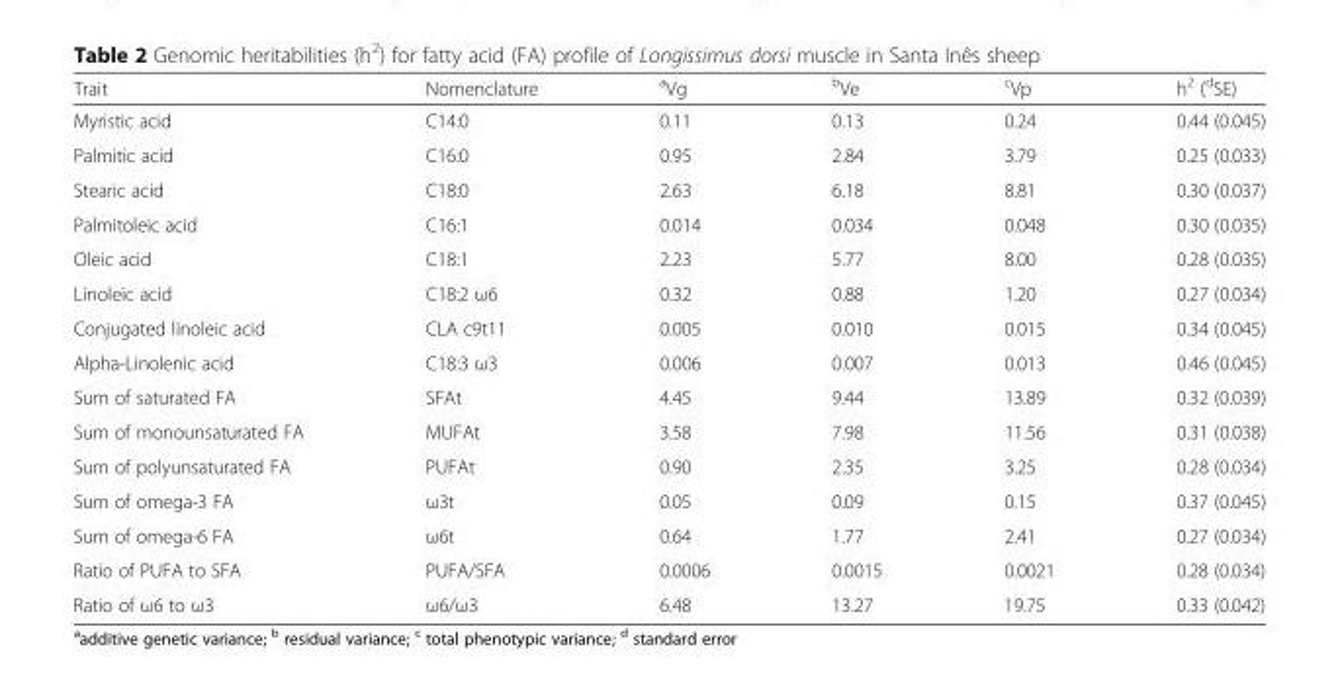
<table><thead><tr><td>Trait</td><td>Nomenclature</td><td><sup>a</sup>Vg</td><td><sup>b</sup>Ve</td><td><sup>c</sup>Vp</td><td>h<sup>2</sup> (<sup>d</sup>SE)</td></tr></thead><tbody><tr><td>Myristic acid</td><td>C14:0</td><td>0.11</td><td>0.13</td><td>0.24</td><td>0.44 (0.045)</td></tr><tr><td>Palmitic acid</td><td>C16:0</td><td>0.95</td><td>2.84</td><td>3.79</td><td>0.25 (0.033)</td></tr><tr><td>Stearic acid</td><td>C18:0</td><td>2.63</td><td>6.18</td><td>8.81</td><td>0.30 (0.037)</td></tr><tr><td>Palmitoleic acid</td><td>C16:1</td><td>0.014</td><td>0.034</td><td>0.048</td><td>0.30 (0.035)</td></tr><tr><td>Oleic acid</td><td>C18:1</td><td>2.23</td><td>5.77</td><td>8.00</td><td>0.28 (0.035)</td></tr><tr><td>Linoleic acid</td><td>C18:2 ω6</td><td>0.32</td><td>0.88</td><td>1.20</td><td>0.27 (0.034)</td></tr><tr><td>Conjugated linoleic acid</td><td>CLA c9t11</td><td>0.005</td><td>0.010</td><td>0.015</td><td>0.34 (0.045)</td></tr><tr><td>Alpha-Linolenic acid</td><td>C18:3 ω3</td><td>0.006</td><td>0.007</td><td>0.013</td><td>0.46 (0.045)</td></tr><tr><td>Sum of saturated FA</td><td>SFAt</td><td>4.45</td><td>9.44</td><td>13.89</td><td>0.32 (0.039)</td></tr><tr><td>Sum of monounsaturated FA</td><td>MUFAt</td><td>3.58</td><td>7.98</td><td>11.56</td><td>0.31 (0.038)</td></tr><tr><td>Sum of polyunsaturated FA</td><td>PUFAt</td><td>0.90</td><td>2.35</td><td>3.25</td><td>0.28 (0.034)</td></tr><tr><td>Sum of omega-3 FA</td><td>ω3t</td><td>0.05</td><td>0.09</td><td>0.15</td><td>0.37 (0.045)</td></tr><tr><td>Sum of omega-6 FA</td><td>ω6t</td><td>0.64</td><td>1.77</td><td>2.41</td><td>0.27 (0.034)</td></tr><tr><td>Ratio of PUFA to SFA</td><td>PUFA/SFA</td><td>0.0006</td><td>0.0015</td><td>0.0021</td><td>0.28 (0.034)</td></tr><tr><td>Ratio of ω6 to ω3</td><td>ω6/ω3</td><td>6.48</td><td>13.27</td><td>19.75</td><td>0.33 (0.042)</td></tr></tbody></table>